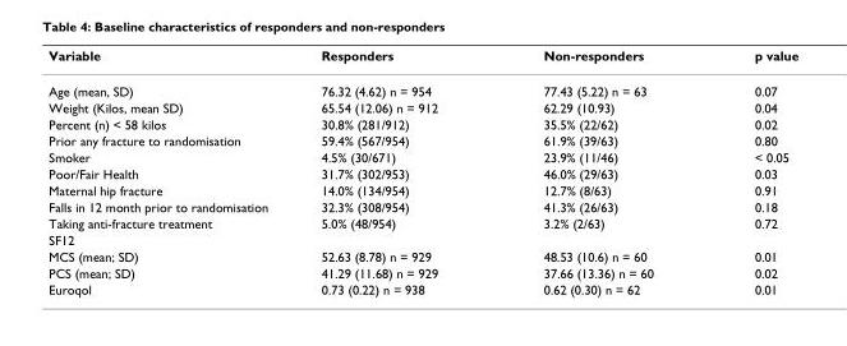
<table><thead><tr><td>Variable</td><td>Responders</td><td>Non-responders</td><td>p value</td></tr></thead><tbody><tr><td>Age (mean, SD)</td><td>76.32 (4.62) n = 954</td><td>77.43 (5.22) n = 63</td><td>0.07</td></tr><tr><td>Weight (Kilos, mean SD)</td><td>65.54 (12.06) n = 912</td><td>62.29 (10.93)</td><td>0.04</td></tr><tr><td>Percent (n) &lt; 58 kilos</td><td>30.8% (281/912)</td><td>35.5% (22/62)</td><td>0.02</td></tr><tr><td>Prior any fracture to randomisation</td><td>59.4% (567/954)</td><td>61.9% (39/63)</td><td>0.80</td></tr><tr><td>Smoker</td><td>4.5% (30/671)</td><td>23.9% (11/46)</td><td>&lt; 0.05</td></tr><tr><td>Poor/Fair Health</td><td>31.7% (302/953)</td><td>46.0% (29/63)</td><td>0.03</td></tr><tr><td>Maternal hip fracture</td><td>14.0% (134/954)</td><td>12.7% (8/63)</td><td>0.91</td></tr><tr><td>Falls in 12 month prior to randomisation</td><td>32.3% (308/954)</td><td>41.3% (26/63)</td><td>0.18</td></tr><tr><td>Taking anti-fracture treatment</td><td>5.0% (48/954)</td><td>3.2% (2/63)</td><td>0.72</td></tr><tr><td colspan="4">SF12</td></tr><tr><td>MCS (mean; SD)</td><td>52.63 (8.78) n = 929</td><td>48.53 (10.6) n = 60</td><td>0.01</td></tr><tr><td>PCS (mean; SD)</td><td>41.29 (11.68) n = 929</td><td>37.66 (13.36) n = 60</td><td>0.02</td></tr><tr><td>Euroqol</td><td>0.73 (0.22) n = 938</td><td>0.62 (0.30) n = 62</td><td>0.01</td></tr></tbody></table>